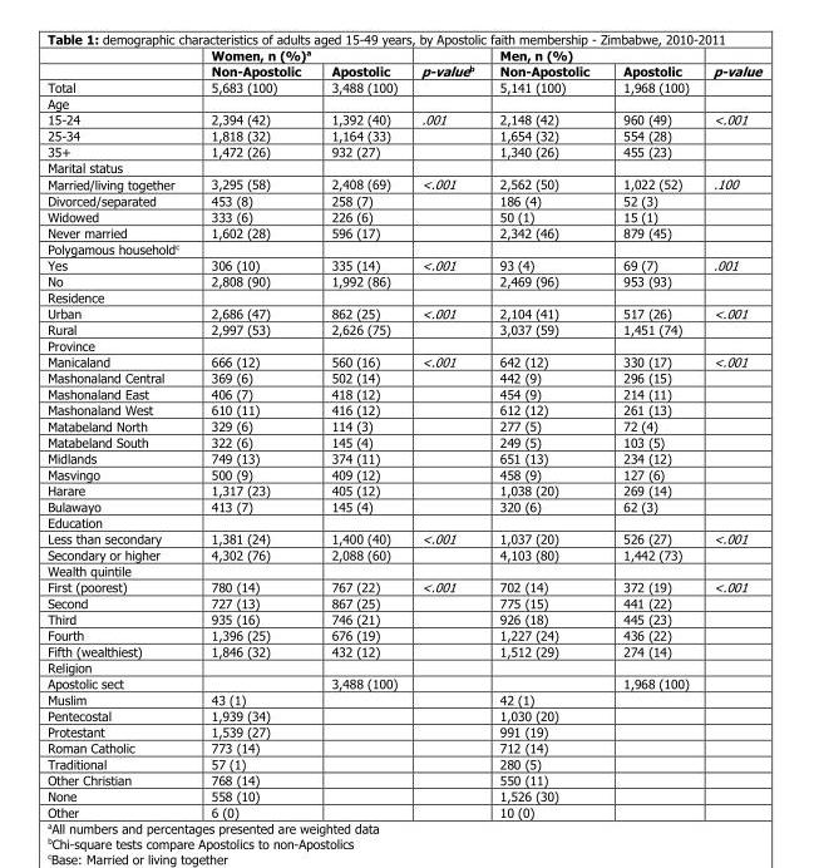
<table><thead><tr><td rowspan="2"></td><td colspan="2">Women, n (%)<sup>a</sup></td><td rowspan="2">p-value<sup>b</sup></td><td colspan="2">Men, n (%)</td><td rowspan="2">p-value</td></tr><tr><td>Non-Apostolic</td><td>Apostolic</td><td>Non-Apostolic</td><td>Apostolic</td></tr></thead><tbody><tr><td>Total</td><td>5,683 (100)</td><td>3,488 (100)</td><td></td><td>5,141 (100)</td><td>1,968 (100)</td><td></td></tr><tr><td colspan="7">Age</td></tr><tr><td>15-24</td><td>2,394 (42)</td><td>1,392 (40)</td><td>.001</td><td>2,148 (42)</td><td>960 (49)</td><td>&lt;.001</td></tr><tr><td>25-34</td><td>1,818 (32)</td><td>1,164 (33)</td><td></td><td>1,654 (32)</td><td>554 (28)</td><td></td></tr><tr><td>35+</td><td>1,472 (26)</td><td>932 (27)</td><td></td><td>1,340 (26)</td><td>455 (23)</td><td></td></tr><tr><td colspan="7">Marital status</td></tr><tr><td>Married/living together</td><td>3,295 (58)</td><td>2,408 (69)</td><td>&lt;.001</td><td>2,562 (50)</td><td>1,022 (52)</td><td>.100</td></tr><tr><td>Divorced/separated</td><td>453 (8)</td><td>258 (7)</td><td></td><td>186 (4)</td><td>52 (3)</td><td></td></tr><tr><td>Widowed</td><td>333 (6)</td><td>226 (6)</td><td></td><td>50 (1)</td><td>15 (1)</td><td></td></tr><tr><td>Never married</td><td>1,602 (28)</td><td>596 (17)</td><td></td><td>2,342 (46)</td><td>879 (45)</td><td></td></tr><tr><td colspan="7">Polygamous household<sup>c</sup></td></tr><tr><td>Yes</td><td>306 (10)</td><td>335 (14)</td><td>&lt;.001</td><td>93 (4)</td><td>69 (7)</td><td>.001</td></tr><tr><td>No</td><td>2,808 (90)</td><td>1,992 (86)</td><td></td><td>2,469 (96)</td><td>953 (93)</td><td></td></tr><tr><td colspan="7">Residence</td></tr><tr><td>Urban</td><td>2,686 (47)</td><td>862 (25)</td><td>&lt;.001</td><td>2,104 (41)</td><td>517 (26)</td><td>&lt;.001</td></tr><tr><td>Rural</td><td>2,997 (53)</td><td>2,626 (75)</td><td></td><td>3,037 (59)</td><td>1,451 (74)</td><td></td></tr><tr><td colspan="7">Province</td></tr><tr><td>Manicaland</td><td>666 (12)</td><td>560 (16)</td><td>&lt;.001</td><td>642 (12)</td><td>330 (17)</td><td>&lt;.001</td></tr><tr><td>Mashonaland Central</td><td>369 (6)</td><td>502 (14)</td><td></td><td>442 (9)</td><td>296 (15)</td><td></td></tr><tr><td>Mashonaland East</td><td>406 (7)</td><td>418 (12)</td><td></td><td>454 (9)</td><td>214 (11)</td><td></td></tr><tr><td>Mashonaland West</td><td>610 (11)</td><td>416 (12)</td><td></td><td>612 (12)</td><td>261 (13)</td><td></td></tr><tr><td>Matabeland North</td><td>329 (6)</td><td>114 (3)</td><td></td><td>277 (5)</td><td>72 (4)</td><td></td></tr><tr><td>Matabeland South</td><td>322 (6)</td><td>145 (4)</td><td></td><td>249 (5)</td><td>103 (5)</td><td></td></tr><tr><td>Midlands</td><td>749 (13)</td><td>374 (11)</td><td></td><td>651 (13)</td><td>234 (12)</td><td></td></tr><tr><td>Masvingo</td><td>500 (9)</td><td>409 (12)</td><td></td><td>458 (9)</td><td>127 (6)</td><td></td></tr><tr><td>Harare</td><td>1,317 (23)</td><td>405 (12)</td><td></td><td>1,038 (20)</td><td>269 (14)</td><td></td></tr><tr><td>Bulawayo</td><td>413 (7)</td><td>145 (4)</td><td></td><td>320 (6)</td><td>62 (3)</td><td></td></tr><tr><td colspan="7">Education</td></tr><tr><td>Less than secondary</td><td>1,381 (24)</td><td>1,400 (40)</td><td>&lt;.001</td><td>1,037 (20)</td><td>526 (27)</td><td>&lt;.001</td></tr><tr><td>Secondary or higher</td><td>4,302 (76)</td><td>2,088 (60)</td><td></td><td>4,103 (80)</td><td>1,442 (73)</td><td></td></tr><tr><td colspan="7">Wealth quintile</td></tr><tr><td>First (poorest)</td><td>780 (14)</td><td>767 (22)</td><td>&lt;.001</td><td>702 (14)</td><td>372 (19)</td><td>&lt;.001</td></tr><tr><td>Second</td><td>727 (13)</td><td>867 (25)</td><td></td><td>775 (15)</td><td>441 (22)</td><td></td></tr><tr><td>Third</td><td>935 (16)</td><td>746 (21)</td><td></td><td>926 (18)</td><td>445 (23)</td><td></td></tr><tr><td>Fourth</td><td>1,396 (25)</td><td>676 (19)</td><td></td><td>1,227 (24)</td><td>436 (22)</td><td></td></tr><tr><td>Fifth (wealthiest)</td><td>1,846 (32)</td><td>432 (12)</td><td></td><td>1,512 (29)</td><td>274 (14)</td><td></td></tr><tr><td colspan="7">Religion</td></tr><tr><td>Apostolic sect</td><td></td><td>3,488 (100)</td><td></td><td></td><td>1,968 (100)</td><td></td></tr><tr><td>Muslim</td><td>43 (1)</td><td></td><td></td><td>42 (1)</td><td></td><td></td></tr><tr><td>Pentecostal</td><td>1,939 (34)</td><td></td><td></td><td>1,030 (20)</td><td></td><td></td></tr><tr><td>Protestant</td><td>1,539 (27)</td><td></td><td></td><td>991 (19)</td><td></td><td></td></tr><tr><td>Roman Catholic</td><td>773 (14)</td><td></td><td></td><td>712 (14)</td><td></td><td></td></tr><tr><td>Traditional</td><td>57 (1)</td><td></td><td></td><td>280 (5)</td><td></td><td></td></tr><tr><td>Other Christian</td><td>768 (14)</td><td></td><td></td><td>550 (11)</td><td></td><td></td></tr><tr><td>None</td><td>558 (10)</td><td></td><td></td><td>1,526 (30)</td><td></td><td></td></tr><tr><td>Other</td><td>6 (0)</td><td></td><td></td><td>10 (0)</td><td></td><td></td></tr></tbody></table>